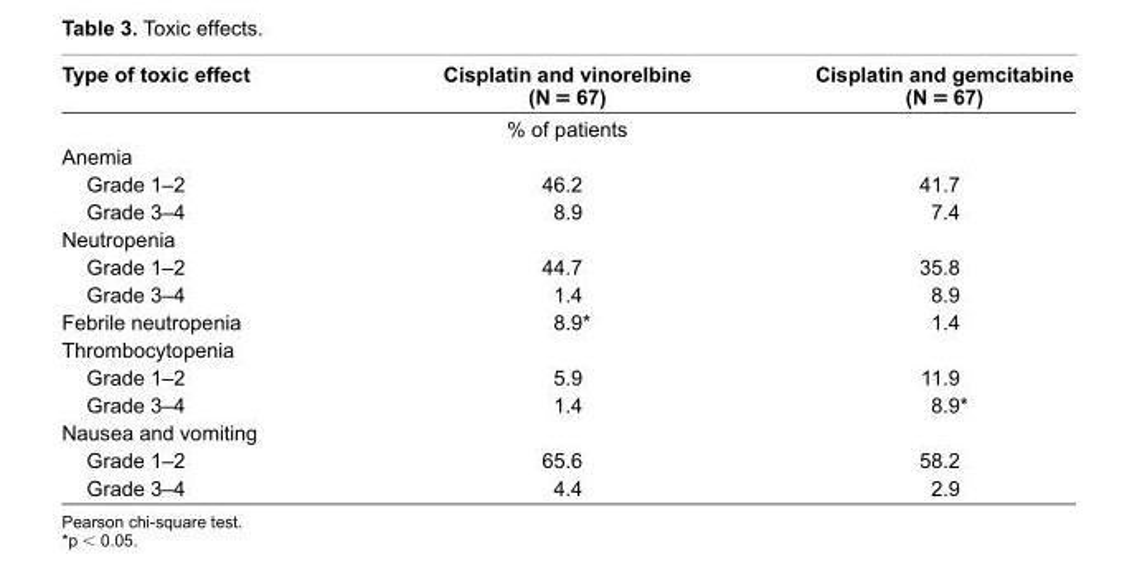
<table><thead><tr><td>Type of toxic effect</td><td>Cisplatin and vinorelbine (N = 67)</td><td>Cisplatin and gemcitabine (N = 67)</td></tr></thead><tbody><tr><td></td><td>% of patients</td><td></td></tr><tr><td colspan="3">Anemia</td></tr><tr><td>Grade 1–2</td><td>46.2</td><td>41.7</td></tr><tr><td>Grade 3–4</td><td>8.9</td><td>7.4</td></tr><tr><td colspan="3">Neutropenia</td></tr><tr><td>Grade 1–2</td><td>44.7</td><td>35.8</td></tr><tr><td>Grade 3–4</td><td>1.4</td><td>8.9</td></tr><tr><td>Febrile neutropenia</td><td>8.9*</td><td>1.4</td></tr><tr><td colspan="3">Thrombocytopenia</td></tr><tr><td>Grade 1–2</td><td>5.9</td><td>11.9</td></tr><tr><td>Grade 3–4</td><td>1.4</td><td>8.9*</td></tr><tr><td colspan="3">Nausea and vomiting</td></tr><tr><td>Grade 1–2</td><td>65.6</td><td>58.2</td></tr><tr><td>Grade 3–4</td><td>4.4</td><td>2.9</td></tr></tbody></table>